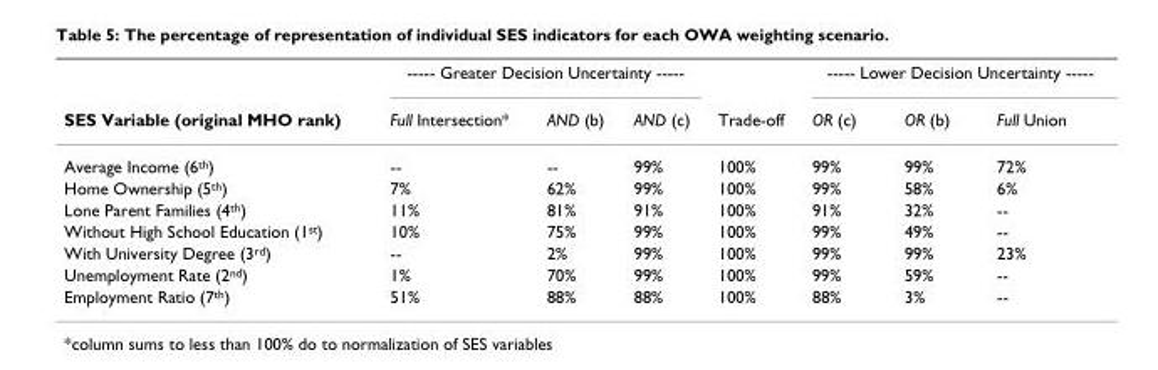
<table><thead><tr><td rowspan="2">SES Variable (original MHO rank)</td><td colspan="3">----- Greater Decision Uncertainty -----</td><td rowspan="2">Trade-off</td><td colspan="3">----- Lower Decision Uncertainty -----</td></tr><tr><td>Full Intersection*</td><td>AND (b)</td><td>AND (c)</td><td>OR (c)</td><td>OR (b)</td><td>Full Union</td></tr></thead><tbody><tr><td>Average Income (6<sup>th</sup>)</td><td>--</td><td>--</td><td>99%</td><td>100%</td><td>99%</td><td>99%</td><td>72%</td></tr><tr><td>Home Ownership (5<sup>th</sup>)</td><td>7%</td><td>62%</td><td>99%</td><td>100%</td><td>99%</td><td>58%</td><td>6%</td></tr><tr><td>Lone Parent Families (4<sup>th</sup>)</td><td>11%</td><td>81%</td><td>91%</td><td>100%</td><td>91%</td><td>32%</td><td>--</td></tr><tr><td>Without High School Education (1<sup>st</sup>)</td><td>10%</td><td>75%</td><td>99%</td><td>100%</td><td>99%</td><td>49%</td><td>--</td></tr><tr><td>With University Degree (3<sup>rd</sup>)</td><td>--</td><td>2%</td><td>99%</td><td>100%</td><td>99%</td><td>99%</td><td>23%</td></tr><tr><td>Unemployment Rate (2<sup>nd</sup>)</td><td>1%</td><td>70%</td><td>99%</td><td>100%</td><td>99%</td><td>59%</td><td>--</td></tr><tr><td>Employment Ratio (7<sup>th</sup>)</td><td>51%</td><td>88%</td><td>88%</td><td>100%</td><td>88%</td><td>3%</td><td>--</td></tr></tbody></table>